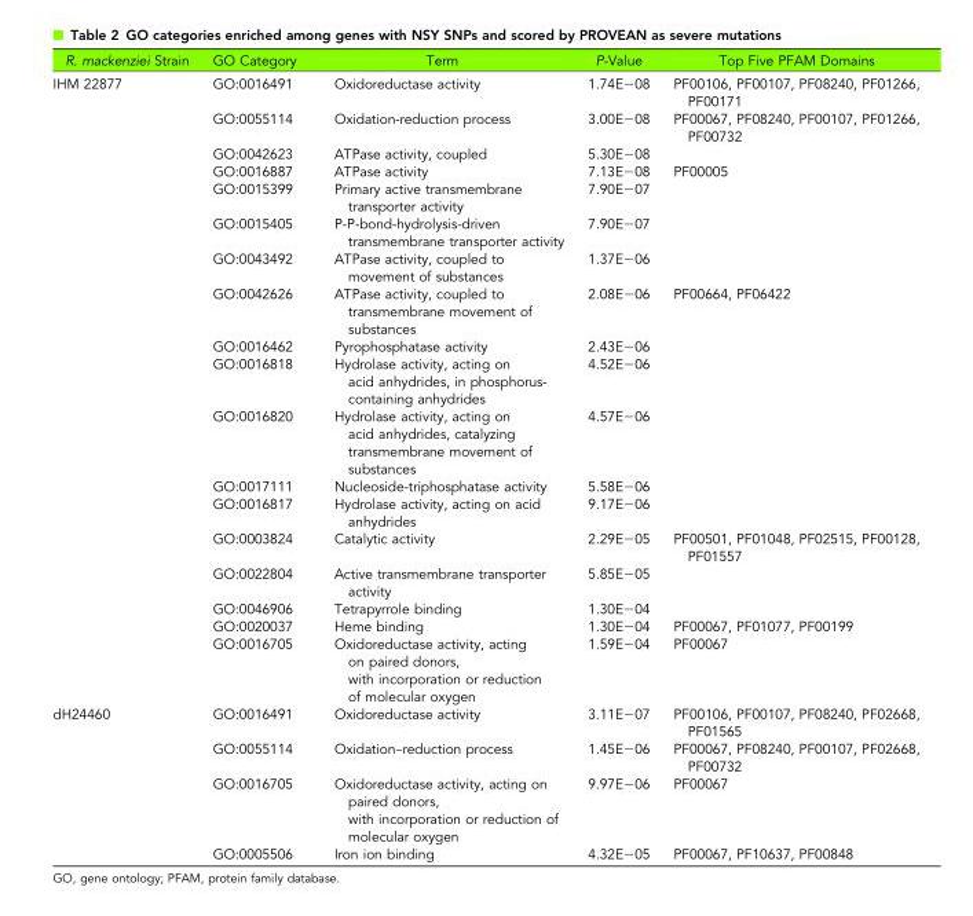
<table><thead><tr><td>R. mackenziei Strain</td><td>GO Category</td><td>Term</td><td>P-Value</td><td>Top Five PFAM Domains</td></tr></thead><tbody><tr><td rowspan="18">IHM 22877</td><td>GO:0016491</td><td>Oxidoreductase activity</td><td>1.74E−08</td><td>PF00106, PF00107, PF08240, PF01266, PF00171</td></tr><tr><td>GO:0055114</td><td>Oxidation-reduction process</td><td>3.00E−08</td><td>PF00067, PF08240, PF00107, PF01266, PF00732</td></tr><tr><td>GO:0042623</td><td>ATPase activity, coupled</td><td>5.30E−08</td><td></td></tr><tr><td>GO:0016887</td><td>ATPase activity</td><td>7.13E−08</td><td>PF00005</td></tr><tr><td>GO:0015399</td><td>Primary active transmembrane transporter activity</td><td>7.90E−07</td><td></td></tr><tr><td>GO:0015405</td><td>P-P-bond-hydrolysis-driven transmembrane transporter activity</td><td>7.90E−07</td><td></td></tr><tr><td>GO:0043492</td><td>ATPase activity, coupled to movement of substances</td><td>1.37E−06</td><td></td></tr><tr><td>GO:0042626</td><td>ATPase activity, coupled to transmembrane movement of substances</td><td>2.08E−06</td><td>PF00664, PF06422</td></tr><tr><td>GO:0016462</td><td>Pyrophosphatase activity</td><td>2.43E−06</td><td></td></tr><tr><td>GO:0016818</td><td>Hydrolase activity, acting on acid anhydrides, in phosphorus- containing anhydrides</td><td>4.52E−06</td><td></td></tr><tr><td>GO:0016820</td><td>Hydrolase activity, acting on acid anhydrides, catalyzing transmembrane movement of substances</td><td>4.57E−06</td><td></td></tr><tr><td>GO:0017111</td><td>Nucleoside-triphosphatase activity</td><td>5.58E−06</td><td></td></tr><tr><td>GO:0016817</td><td>Hydrolase activity, acting on acid anhydrides</td><td>9.17E−06</td><td></td></tr><tr><td>GO:0003824</td><td>Catalytic activity</td><td>2.29E−05</td><td>PF00501, PF01048, PF02515, PF00128, PF01557</td></tr><tr><td>GO:0022804</td><td>Active transmembrane transporter activity</td><td>5.85E−05</td><td></td></tr><tr><td>GO:0046906</td><td>Tetrapyrrole binding</td><td>1.30E−04</td><td></td></tr><tr><td>GO:0020037</td><td>Heme binding</td><td>1.30E−04</td><td>PF00067, PF01077, PF00199</td></tr><tr><td>GO:0016705</td><td>Oxidoreductase activity, acting on paired donors, with incorporation or reduction of molecular oxygen</td><td>1.59E−04</td><td>PF00067</td></tr><tr><td rowspan="4">dH24460</td><td>GO:0016491</td><td>Oxidoreductase activity</td><td>3.11E−07</td><td>PF00106, PF00107, PF08240, PF02668, PF01565</td></tr><tr><td>GO:0055114</td><td>Oxidation–reduction process</td><td>1.45E−06</td><td>PF00067, PF08240, PF00107, PF02668, PF00732</td></tr><tr><td>GO:0016705</td><td>Oxidoreductase activity, acting on paired donors, with incorporation or reduction of molecular oxygen</td><td>9.97E−06</td><td>PF00067</td></tr><tr><td>GO:0005506</td><td>Iron ion binding</td><td>4.32E−05</td><td>PF00067, PF10637, PF00848</td></tr></tbody></table>